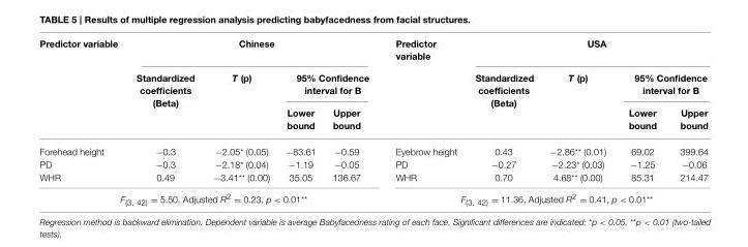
<table><thead><tr><td rowspan="3">Predictor variable</td><td colspan="4">Chinese</td><td rowspan="3">Predictor variable</td><td colspan="4">USA</td></tr><tr><td rowspan="2">Standardized coefficients (Beta)</td><td rowspan="2">T (p)</td><td colspan="2">95% Confidence interval for B</td><td rowspan="2">Standardized coefficients (Beta)</td><td rowspan="2">T (p)</td><td colspan="2">95% Confidence interval for B</td></tr><tr><td>Lower bound</td><td>Upper bound</td><td>Lower bound</td><td>Upper bound</td></tr></thead><tbody><tr><td>Forehead height</td><td>−0.3</td><td>−2.05* (0.05)</td><td>−83.61</td><td>−0.59</td><td>Eyebrow height</td><td>0.43</td><td>−2.86** (0.01)</td><td>69.02</td><td>399.64</td></tr><tr><td>PD</td><td>−0.3</td><td>−2.18* (0.04)</td><td>−1.19</td><td>−0.05</td><td>PD</td><td>−0.27</td><td>−2.23* (0.03)</td><td>−1.25</td><td>−0.06</td></tr><tr><td>WHR</td><td>0.49</td><td>−3.41** (0.00)</td><td>35.05</td><td>136.67</td><td>WHR</td><td>0.70</td><td>4.68** (0.00)</td><td>85.31</td><td>214.47</td></tr><tr><td colspan="5">F<sub>(3, 42)</sub> = 5.50, Adjusted R<sup>2</sup> = 0.23, p &lt; 0.01**</td><td colspan="5">F<sub>(3, 42)</sub> = 11.36, Adjusted R<sup>2</sup> = 0.41, p &lt; 0.01**</td></tr></tbody></table>